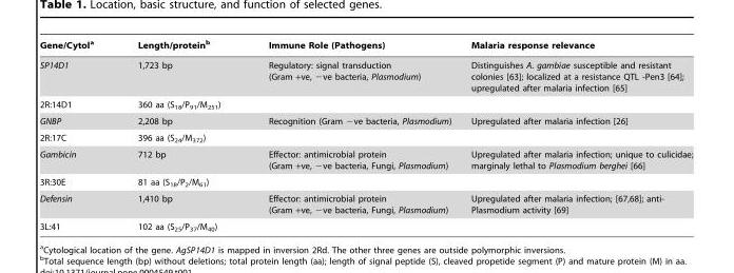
<table><thead><tr><td>Gene/Cytol<sup>a</sup></td><td>Length/protein<sup>b</sup></td><td>Immune Role (Pathogens)</td><td>Malaria response relevance</td></tr></thead><tbody><tr><td>SP14D1</td><td>1,723 bp</td><td>Regulatory: signal transduction (Gram +ve, −ve bacteria, Plasmodium)</td><td>Distinguishes A. gambiae susceptible and resistant colonies [63]; localized at a resistance QTL -Pen3 [64]; upregulated after malaria infection [65]</td></tr><tr><td>2R:14D1</td><td>360 aa (S<sub>18</sub>/P<sub>91</sub>/M<sub>251</sub>)</td><td></td><td></td></tr><tr><td>GNBP</td><td>2,208 bp</td><td>Recognition (Gram −ve bacteria, Plasmodium)</td><td>Upregulated after malaria infection [26]</td></tr><tr><td>2R:17C</td><td>396 aa (S<sub>24</sub>/M<sub>372</sub>)</td><td></td><td></td></tr><tr><td>Gambicin</td><td>712 bp</td><td>Effector: antimicrobial protein (Gram +ve, −ve bacteria, Fungi, Plasmodium)</td><td>Upregulated after malaria infection; unique to culicidae; marginaly lethal to Plasmodium berghei [66]</td></tr><tr><td>3R:30E</td><td>81 aa (S<sub>18</sub>/P<sub>2</sub>/M<sub>61</sub>)</td><td></td><td></td></tr><tr><td>Defensin</td><td>1,410 bp</td><td>Effector: antimicrobial protein (Gram +ve, −ve bacteria, Fungi, Plasmodium)</td><td>Upregulated after malaria infection; [67,68]; anti- Plasmodium activity [69]</td></tr><tr><td>3L:41</td><td>102 aa (S<sub>25</sub>/P<sub>37</sub>/M<sub>40</sub>)</td><td></td><td></td></tr></tbody></table>